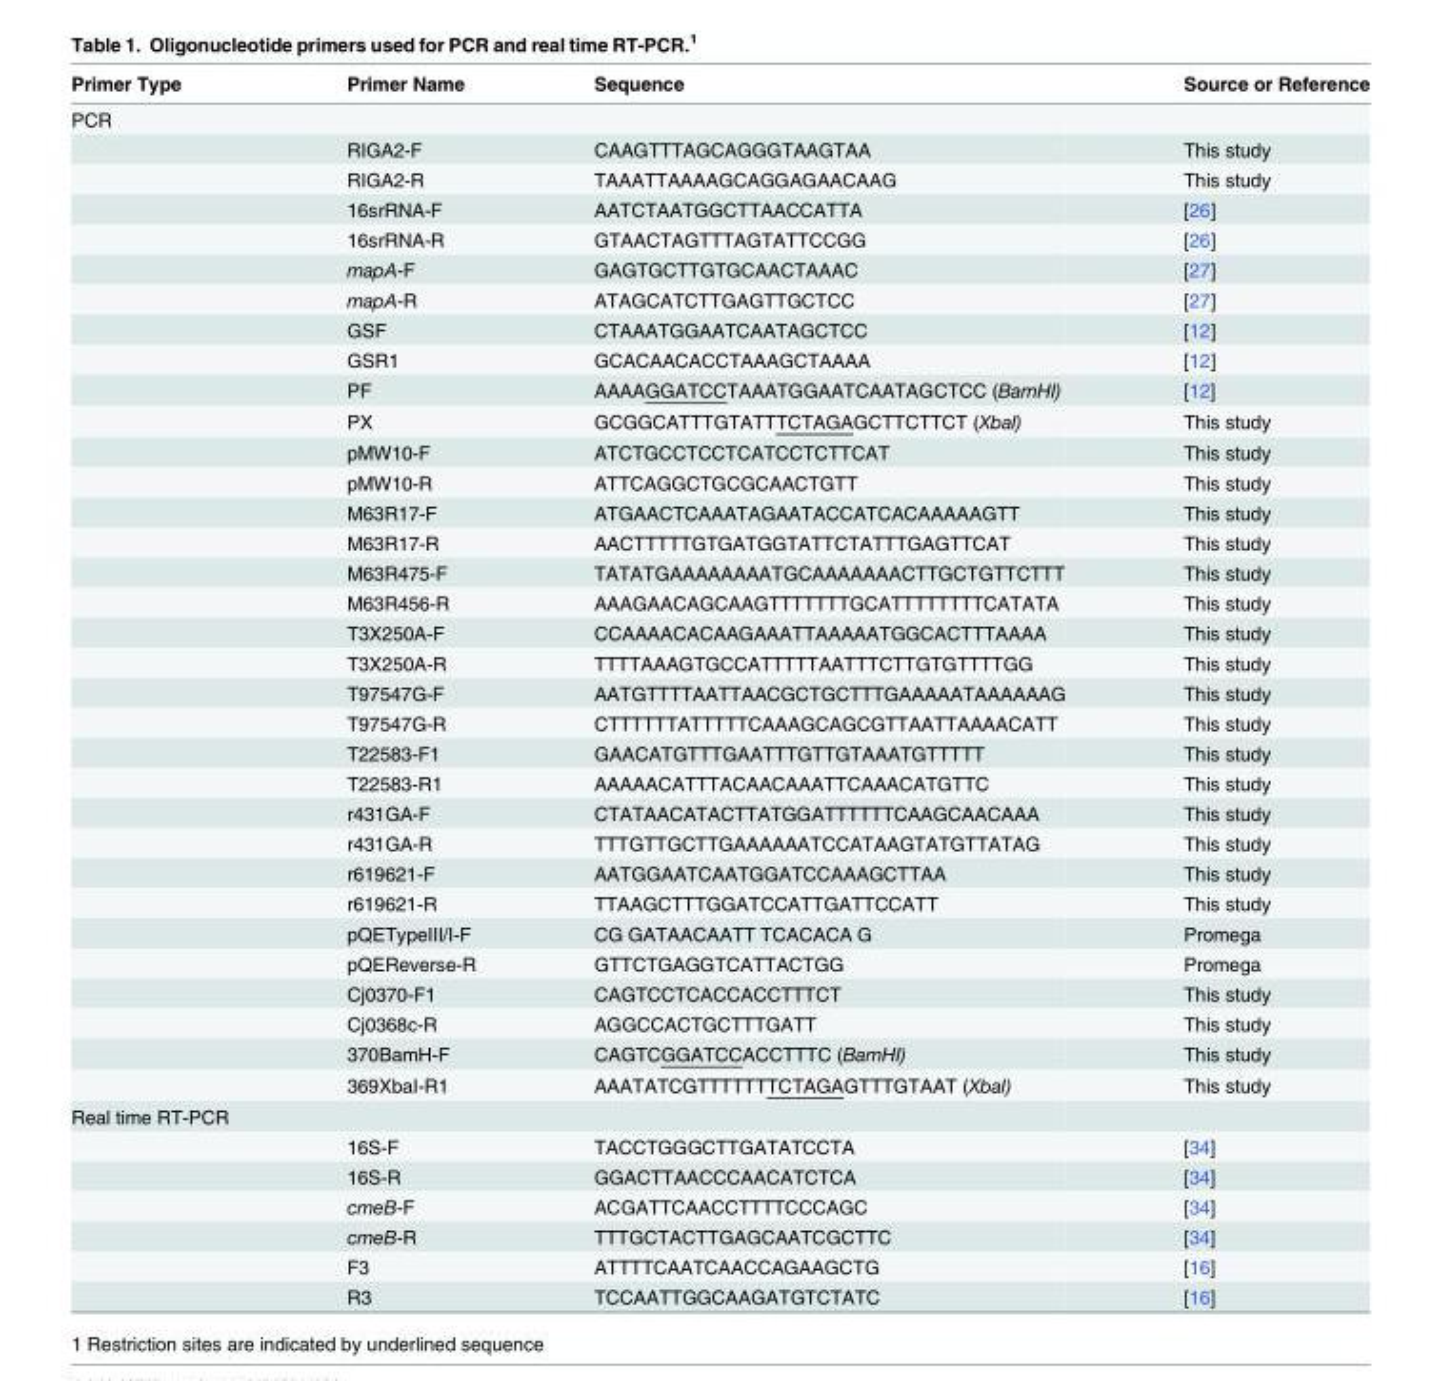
<table><thead><tr><td>Primer Type</td><td>Primer Name</td><td>Sequence</td><td>Source or Reference</td></tr></thead><tbody><tr><td colspan="4">PCR</td></tr><tr><td></td><td>RIGA2-F</td><td>CAAGTTTAGCAGGGTAAGTAA</td><td>This study</td></tr><tr><td></td><td>RIGA2-R</td><td>TAAATTAAAAGCAGGAGAACAAG</td><td>This study</td></tr><tr><td></td><td>16srRNA-F</td><td>AATCTAATGGCTTAACCATTA</td><td>[26]</td></tr><tr><td></td><td>16srRNA-R</td><td>GTAACTAGTTTAGTATTCCGG</td><td>[26]</td></tr><tr><td></td><td>mapA-F</td><td>GAGTGCTTGTGCAACTAAAC</td><td>[27]</td></tr><tr><td></td><td>mapA-R</td><td>ATAGCATCTTGAGTTGCTCC</td><td>[27]</td></tr><tr><td></td><td>GSF</td><td>CTAAATGGAATCAATAGCTCC</td><td>[12]</td></tr><tr><td></td><td>GSR1</td><td>GCACAACACCTAAAGCTAAAA</td><td>[12]</td></tr><tr><td></td><td>PF</td><td>AAAAGGATCCTAAATGGAATCAATAGCTCC (BamHI)</td><td>[12]</td></tr><tr><td></td><td>PX</td><td>GCGGCATTTGTATTTCTAGAGCTTCTTCT (XbaI)</td><td>This study</td></tr><tr><td></td><td>pMW10-F</td><td>ATCTGCCTCCTCATCCTCTTCAT</td><td>This study</td></tr><tr><td></td><td>pMW10-R</td><td>ATTCAGGCTGCGCAACTGTT</td><td>This study</td></tr><tr><td></td><td>M63R17-F</td><td>ATGAACTCAAATAGAATACCATCACAAAAAGTT</td><td>This study</td></tr><tr><td></td><td>M63R17-R</td><td>AACTTTTTGTGATGGTATTCTATTTGAGTTCAT</td><td>This study</td></tr><tr><td></td><td>M63R475-F</td><td>TATATGAAAAAAAATGCAAAAAAACTTGCTGTTCTTT</td><td>This study</td></tr><tr><td></td><td>M63R456-R</td><td>AAAGAACAGCAAGTTTTTTTGCATTTTTTTTCATATA</td><td>This study</td></tr><tr><td></td><td>T3X250A-F</td><td>CCAAAACACAAGAAATTAAAAATGGCACTTTAAAA</td><td>This study</td></tr><tr><td></td><td>T3X250A-R</td><td>TTTTAAAGTGCCATTTTTAATTTCTTGTGTTTTGG</td><td>This study</td></tr><tr><td></td><td>T97547G-F</td><td>AATGTTTTAATTAACGCTGCTTTGAAAAATAAAAAAG</td><td>This study</td></tr><tr><td></td><td>T97547G-R</td><td>CTTTTTTATTTTTCAAAGCAGCGTTAATTAAAACATT</td><td>This study</td></tr><tr><td></td><td>T22583-F1</td><td>GAACATGTTTGAATTTGTTGTAAATGTTTTT</td><td>This study</td></tr><tr><td></td><td>T22583-R1</td><td>AAAAACATTTACAACAAATTCAAACATGTTC</td><td>This study</td></tr><tr><td></td><td>r431GA-F</td><td>CTATAACATACTTATGGATTTTTTCAAGCAACAAA</td><td>This study</td></tr><tr><td></td><td>r431GA-R</td><td>TTTGTTGCTTGAAAAAATCCATAAGTATGTTATAG</td><td>This study</td></tr><tr><td></td><td>r619621-F</td><td>AATGGAATCAATGGATCCAAAGCTTAA</td><td>This study</td></tr><tr><td></td><td>r619621-R</td><td>TTAAGCTTTGGATCCATTGATTCCATT</td><td>This study</td></tr><tr><td></td><td>pQETypeIII/I-F</td><td>CG GATAACAATT TCACACA G</td><td>Promega</td></tr><tr><td></td><td>pQEReverse-R</td><td>GTTCTGAGGTCATTACTGG</td><td>Promega</td></tr><tr><td></td><td>Cj0370-F1</td><td>CAGTCCTCACCACCTTTCT</td><td>This study</td></tr><tr><td></td><td>Cj0368c-R</td><td>AGGCCACTGCTTTGATT</td><td>This study</td></tr><tr><td></td><td>370BamH-F</td><td>CAGTCGGATCCACCTTTC (BamHI)</td><td>This study</td></tr><tr><td></td><td>369XbaI-R1</td><td>AAATATCGTTTTTTTCTAGAGTTTGTAAT (XbaI)</td><td>This study</td></tr><tr><td colspan="4">Real time RT-PCR</td></tr><tr><td></td><td>16S-F</td><td>TACCTGGGCTTGATATCCTA</td><td>[34]</td></tr><tr><td></td><td>16S-R</td><td>GGACTTAACCCAACATCTCA</td><td>[34]</td></tr><tr><td></td><td>cmeB-F</td><td>ACGATTCAACCTTTTCCCAGC</td><td>[34]</td></tr><tr><td></td><td>cmeB-R</td><td>TTTGCTACTTGAGCAATCGCTTC</td><td>[34]</td></tr><tr><td></td><td>F3</td><td>ATTTTCAATCAACCAGAAGCTG</td><td>[16]</td></tr><tr><td></td><td>R3</td><td>TCCAATTGGCAAGATGTCTATC</td><td>[16]</td></tr></tbody></table>